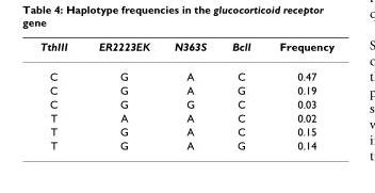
<table><thead><tr><td>TthIII</td><td>ER2223EK</td><td>N363S</td><td>BclI</td><td>Frequency</td></tr></thead><tbody><tr><td>C</td><td>G</td><td>A</td><td>C</td><td>0.47</td></tr><tr><td>C</td><td>G</td><td>A</td><td>G</td><td>0.19</td></tr><tr><td>C</td><td>G</td><td>G</td><td>C</td><td>0.03</td></tr><tr><td>T</td><td>A</td><td>A</td><td>C</td><td>0.02</td></tr><tr><td>T</td><td>G</td><td>A</td><td>C</td><td>0.15</td></tr><tr><td>T</td><td>G</td><td>A</td><td>G</td><td>0.14</td></tr></tbody></table>